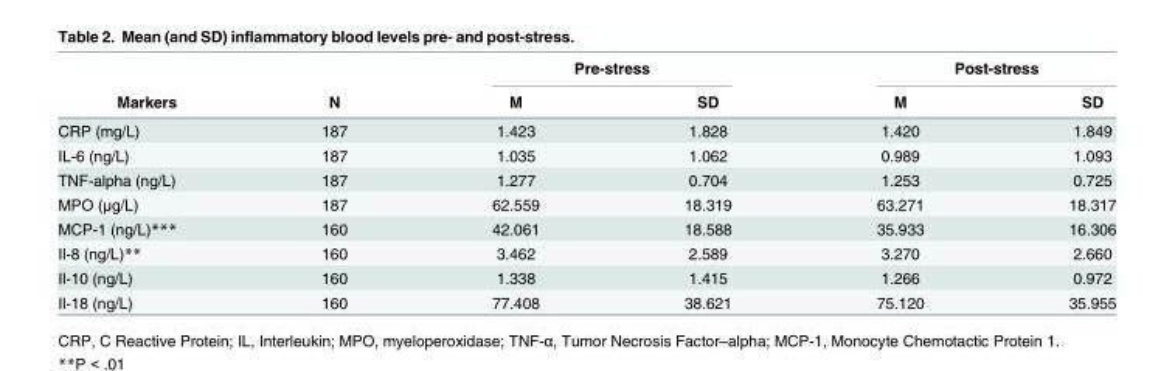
<table><thead><tr><td rowspan="2">Markers</td><td rowspan="2">N</td><td colspan="2">Pre-stress</td><td colspan="2">Post-stress</td></tr><tr><td>M</td><td>SD</td><td>M</td><td>SD</td></tr></thead><tbody><tr><td>CRP (mg/L)</td><td>187</td><td>1.423</td><td>1.828</td><td>1.420</td><td>1.849</td></tr><tr><td>IL-6 (ng/L)</td><td>187</td><td>1.035</td><td>1.062</td><td>0.989</td><td>1.093</td></tr><tr><td>TNF-alpha (ng/L)</td><td>187</td><td>1.277</td><td>0.704</td><td>1.253</td><td>0.725</td></tr><tr><td>MPO (μg/L)</td><td>187</td><td>62.559</td><td>18.319</td><td>63.271</td><td>18.317</td></tr><tr><td>MCP-1 (ng/L)***</td><td>160</td><td>42.061</td><td>18.588</td><td>35.933</td><td>16.306</td></tr><tr><td>Il-8 (ng/L)**</td><td>160</td><td>3.462</td><td>2.589</td><td>3.270</td><td>2.660</td></tr><tr><td>Il-10 (ng/L)</td><td>160</td><td>1.338</td><td>1.415</td><td>1.266</td><td>0.972</td></tr><tr><td>Il-18 (ng/L)</td><td>160</td><td>77.408</td><td>38.621</td><td>75.120</td><td>35.955</td></tr></tbody></table>